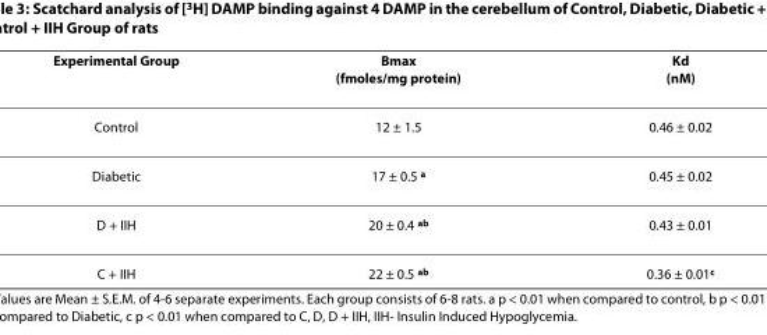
<table><thead><tr><td>Experimental Group</td><td>Bmax (fmoles/mg protein)</td><td>Kd (nM)</td></tr></thead><tbody><tr><td>Control</td><td>12 ± 1.5</td><td>0.46 ± 0.02</td></tr><tr><td>Diabetic</td><td>17 ± 0.5 <sup>a</sup></td><td>0.45 ± 0.02</td></tr><tr><td>D + IIH</td><td>20 ± 0.4 <sup>ab</sup></td><td>0.43 ± 0.01</td></tr><tr><td>C + IIH</td><td>22 ± 0.5 <sup>ab</sup></td><td>0.36 ± 0.01<sup>c</sup></td></tr></tbody></table>